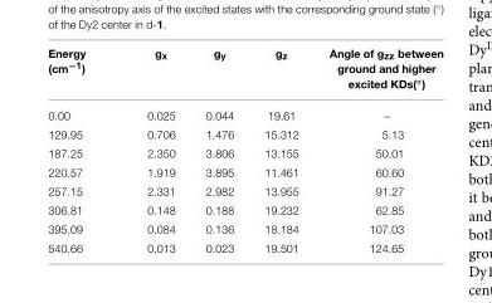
<table><thead><tr><td>Energy (cm<sup>−1</sup>)</td><td>g<sub>x</sub></td><td>g<sub>y</sub></td><td>g<sub>z</sub></td><td>Angle of gzz between ground and higher excited KDs(◦)</td></tr></thead><tbody><tr><td>0.00</td><td>0.025</td><td>0.044</td><td>19.61</td><td>–</td></tr><tr><td>129.95</td><td>0.706</td><td>1.476</td><td>15.312</td><td>5.13</td></tr><tr><td>187.25</td><td>2.350</td><td>3.806</td><td>13.155</td><td>50.01</td></tr><tr><td>220.57</td><td>1.919</td><td>3.895</td><td>11.461</td><td>60.60</td></tr><tr><td>257.15</td><td>2.331</td><td>2.982</td><td>13.955</td><td>91.27</td></tr><tr><td>306.81</td><td>0.148</td><td>0.188</td><td>19.232</td><td>62.85</td></tr><tr><td>395.09</td><td>0.084</td><td>0.136</td><td>18.184</td><td>107.03</td></tr><tr><td>540.66</td><td>0.013</td><td>0.023</td><td>19.501</td><td>124.65</td></tr></tbody></table>